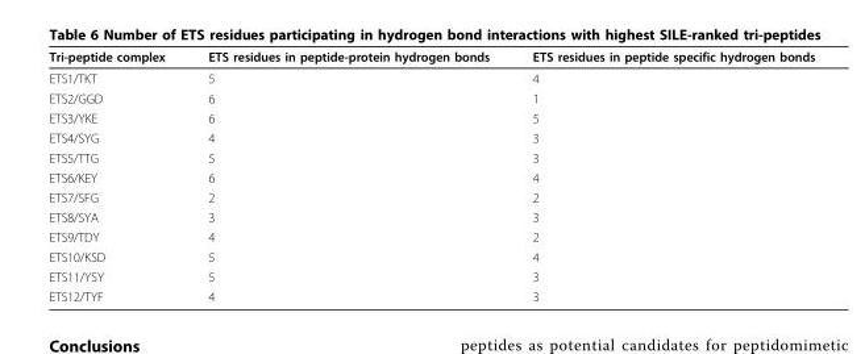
<table><thead><tr><td>Tri-peptide complex</td><td>ETS residues in peptide-protein hydrogen bonds</td><td>ETS residues in peptide specific hydrogen bonds</td></tr></thead><tbody><tr><td>ETS1/TKT</td><td>5</td><td>4</td></tr><tr><td>ETS2/GGD</td><td>6</td><td>1</td></tr><tr><td>ETS3/YKE</td><td>6</td><td>5</td></tr><tr><td>ETS4/SYG</td><td>4</td><td>3</td></tr><tr><td>ETS5/TTG</td><td>5</td><td>3</td></tr><tr><td>ETS6/KEY</td><td>6</td><td>4</td></tr><tr><td>ETS7/SFG</td><td>2</td><td>2</td></tr><tr><td>ETS8/SYA</td><td>3</td><td>3</td></tr><tr><td>ETS9/TDY</td><td>4</td><td>2</td></tr><tr><td>ETS10/KSD</td><td>5</td><td>4</td></tr><tr><td>ETS11/YSY</td><td>5</td><td>3</td></tr><tr><td>ETS12/TYF</td><td>4</td><td>3</td></tr></tbody></table>